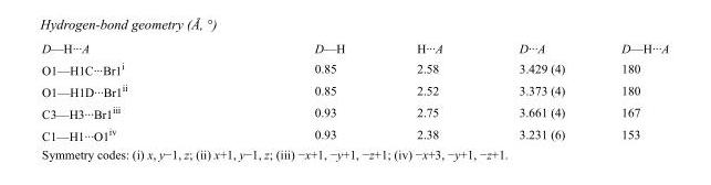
<table><tbody><tr><td>D—H···A</td><td>D—H</td><td>H···A</td><td>D···A</td><td>D—H···A</td></tr><tr><td>O1—H1C···Br1<sup>i</sup></td><td>0.85</td><td>2.58</td><td>3.429 (4)</td><td>180</td></tr><tr><td>O1—H1D···Br1<sup>ii</sup></td><td>0.85</td><td>2.52</td><td>3.373 (4)</td><td>180</td></tr><tr><td>C3—H3···Br1<sup>iii</sup></td><td>0.93</td><td>2.75</td><td>3.661 (4)</td><td>167</td></tr><tr><td>C1—H1···O1<sup>iv</sup></td><td>0.93</td><td>2.38</td><td>3.231 (6)</td><td>153</td></tr></tbody></table>